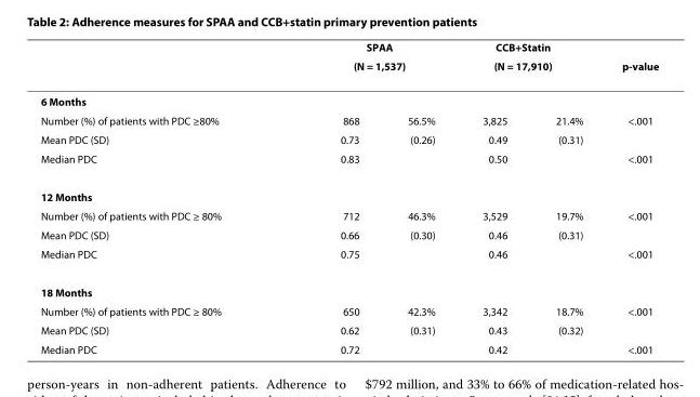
<table><thead><tr><td rowspan="3">6 Months</td><td rowspan="2" colspan="2">SPAA (N = 1,537)</td><td rowspan="2" colspan="2">CCB+Statin (N = 17,910)</td><td rowspan="3">p-value</td></tr><tr></tr><tr><td></td><td></td><td></td><td></td></tr></thead><tbody><tr><td>Number (%) of patients with PDC ≥80%</td><td>868</td><td>56.5%</td><td>3,825</td><td>21.4%</td><td>&lt;.001</td></tr><tr><td>Mean PDC (SD)</td><td>0.73</td><td>(0.26)</td><td>0.49</td><td>(0.31)</td><td></td></tr><tr><td>Median PDC</td><td>0.83</td><td></td><td>0.50</td><td></td><td>&lt;.001</td></tr><tr><td colspan="6">12 Months</td></tr><tr><td>Number (%) of patients with PDC ≥ 80%</td><td>712</td><td>46.3%</td><td>3,529</td><td>19.7%</td><td>&lt;.001</td></tr><tr><td>Mean PDC (SD)</td><td>0.66</td><td>(0.30)</td><td>0.46</td><td>(0.31)</td><td></td></tr><tr><td>Median PDC</td><td>0.75</td><td></td><td>0.46</td><td></td><td>&lt;.001</td></tr><tr><td colspan="6">18 Months</td></tr><tr><td>Number (%) of patients with PDC ≥ 80%</td><td>650</td><td>42.3%</td><td>3,342</td><td>18.7%</td><td>&lt;.001</td></tr><tr><td>Mean PDC (SD)</td><td>0.62</td><td>(0.31)</td><td>0.43</td><td>(0.32)</td><td></td></tr><tr><td>Median PDC</td><td>0.72</td><td></td><td>0.42</td><td></td><td>&lt;.001</td></tr></tbody></table>